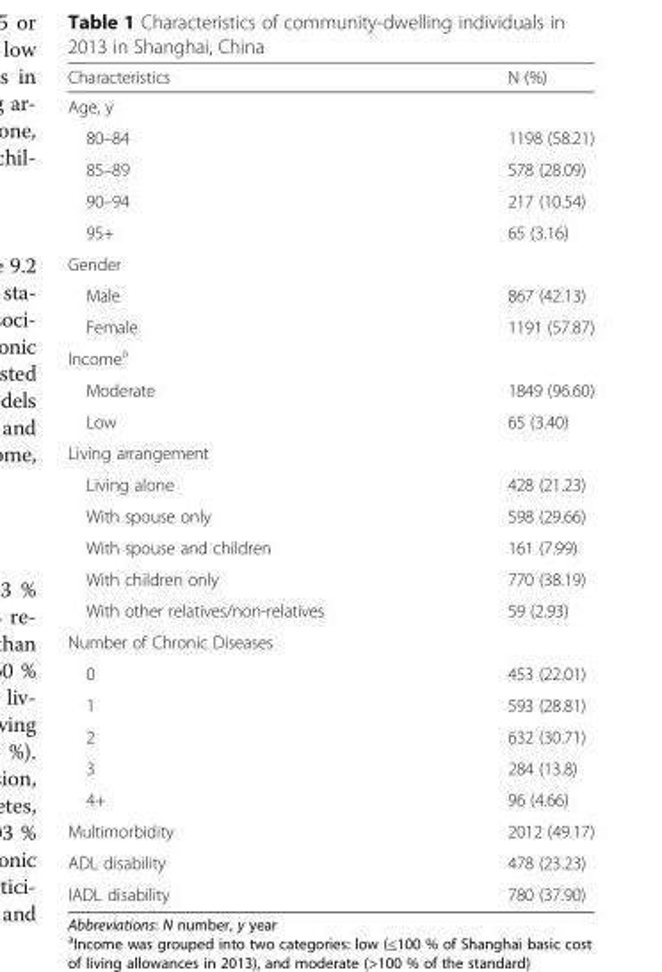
<table><thead><tr><td>Characteristics</td><td>N (%)</td></tr></thead><tbody><tr><td colspan="2">Age, y</td></tr><tr><td>80–84</td><td>1198 (58.21)</td></tr><tr><td>85–89</td><td>578 (28.09)</td></tr><tr><td>90–94</td><td>217 (10.54)</td></tr><tr><td>95+</td><td>65 (3.16)</td></tr><tr><td colspan="2">Gender</td></tr><tr><td>Male</td><td>867 (42.13)</td></tr><tr><td>Female</td><td>1191 (57.87)</td></tr><tr><td colspan="2">Income<sup>a</sup></td></tr><tr><td>Moderate</td><td>1849 (96.60)</td></tr><tr><td>Low</td><td>65 (3.40)</td></tr><tr><td colspan="2">Living arrangement</td></tr><tr><td>Living alone</td><td>428 (21.23)</td></tr><tr><td>With spouse only</td><td>598 (29.66)</td></tr><tr><td>With spouse and children</td><td>161 (7.99)</td></tr><tr><td>With children only</td><td>770 (38.19)</td></tr><tr><td>With other relatives/non-relatives</td><td>59 (2.93)</td></tr><tr><td colspan="2">Number of Chronic Diseases</td></tr><tr><td>0</td><td>453 (22.01)</td></tr><tr><td>1</td><td>593 (28.81)</td></tr><tr><td>2</td><td>632 (30.71)</td></tr><tr><td>3</td><td>284 (13.8)</td></tr><tr><td>4+</td><td>96 (4.66)</td></tr><tr><td>Multimorbidity</td><td>2012 (49.17)</td></tr><tr><td>ADL disability</td><td>478 (23.23)</td></tr><tr><td>IADL disability</td><td>780 (37.90)</td></tr></tbody></table>